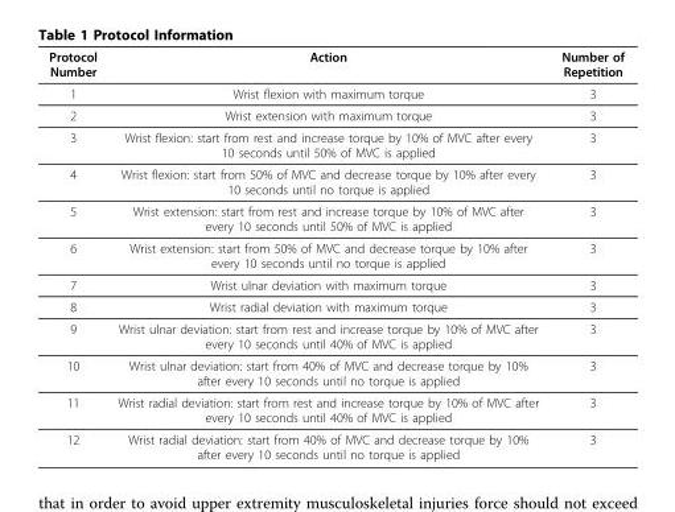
<table><thead><tr><td>Protocol Number</td><td>Action</td><td>Number of Repetition</td></tr></thead><tbody><tr><td>1</td><td>Wrist flexion with maximum torque</td><td>3</td></tr><tr><td>2</td><td>Wrist extension with maximum torque</td><td>3</td></tr><tr><td>3</td><td>Wrist flexion: start from rest and increase torque by 10% of MVC after every 10 seconds until 50% of MVC is applied</td><td>3</td></tr><tr><td>4</td><td>Wrist flexion: start from 50% of MVC and decrease torque by 10% after every 10 seconds until no torque is applied</td><td>3</td></tr><tr><td>5</td><td>Wrist extension: start from rest and increase torque by 10% of MVC after every 10 seconds until 50% of MVC is applied</td><td>3</td></tr><tr><td>6</td><td>Wrist extension: start from 50% of MVC and decrease torque by 10% after every 10 seconds until no torque is applied</td><td>3</td></tr><tr><td>7</td><td>Wrist ulnar deviation with maximum torque</td><td>3</td></tr><tr><td>8</td><td>Wrist radial deviation with maximum torque</td><td>3</td></tr><tr><td>9</td><td>Wrist ulnar deviation: start from rest and increase torque by 10% of MVC after every 10 seconds until 40% of MVC is applied</td><td>3</td></tr><tr><td>10</td><td>Wrist ulnar deviation: start from 40% of MVC and decrease torque by 10% after every 10 seconds until no torque is applied</td><td>3</td></tr><tr><td>11</td><td>Wrist radial deviation: start from rest and increase torque by 10% of MVC after every 10 seconds until 40% of MVC is applied</td><td>3</td></tr><tr><td>12</td><td>Wrist radial deviation: start from 40% of MVC and decrease torque by 10% after every 10 seconds until no torque is applied</td><td>3</td></tr></tbody></table>